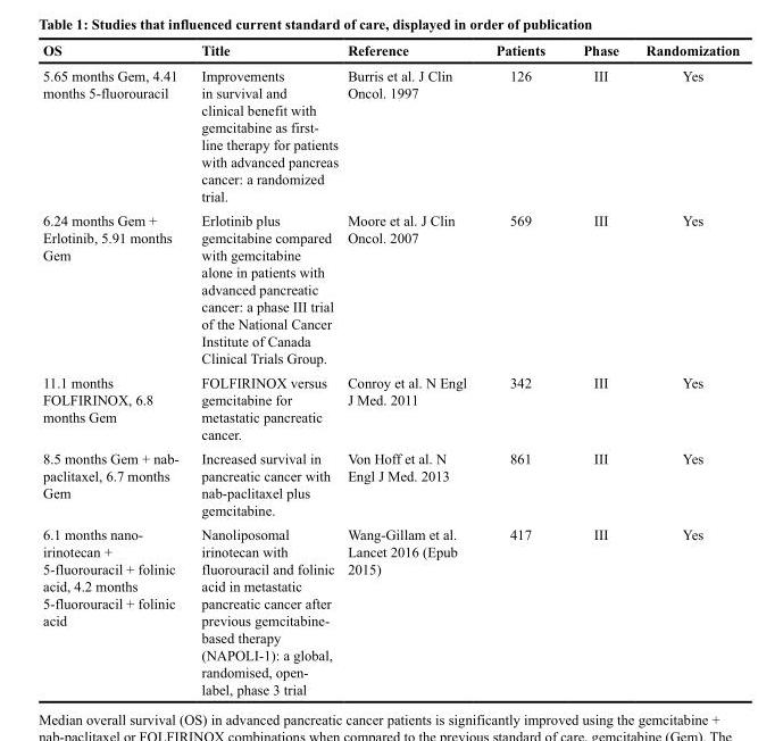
<table><thead><tr><td>OS</td><td>Title</td><td>Reference</td><td>Patients</td><td>Phase</td><td>Randomization</td></tr></thead><tbody><tr><td>5.65 months Gem, 4.41 months 5-fluorouracil</td><td>Improvements in survival and clinical benefit with gemcitabine as first- line therapy for patients with advanced pancreas cancer: a randomized trial.</td><td>Burris et al. J Clin Oncol. 1997</td><td>126</td><td>III</td><td>Yes</td></tr><tr><td>6.24 months Gem + Erlotinib, 5.91 months Gem</td><td>Erlotinib plus gemcitabine compared with gemcitabine alone in patients with advanced pancreatic cancer: a phase III trial of the National Cancer Institute of Canada Clinical Trials Group.</td><td>Moore et al. J Clin Oncol. 2007</td><td>569</td><td>III</td><td>Yes</td></tr><tr><td>11.1 months FOLFIRINOX, 6.8 months Gem</td><td>FOLFIRINOX versus gemcitabine for metastatic pancreatic cancer.</td><td>Conroy et al. N Engl J Med. 2011</td><td>342</td><td>III</td><td>Yes</td></tr><tr><td>8.5 months Gem + nab- paclitaxel, 6.7 months Gem</td><td>Increased survival in pancreatic cancer with nab-paclitaxel plus gemcitabine.</td><td>Von Hoff et al. N Engl J Med. 2013</td><td>861</td><td>III</td><td>Yes</td></tr><tr><td>6.1 months nano- irinotecan + 5-fluorouracil + folinic acid, 4.2 months 5-fluorouracil + folinic acid</td><td>Nanoliposomal irinotecan with fluorouracil and folinic acid in metastatic pancreatic cancer after previous gemcitabine- based therapy (NAPOLI-1): a global, randomised, open- label, phase 3 trial</td><td>Wang-Gillam et al. Lancet 2016 (Epub 2015)</td><td>417</td><td>III</td><td>Yes</td></tr></tbody></table>